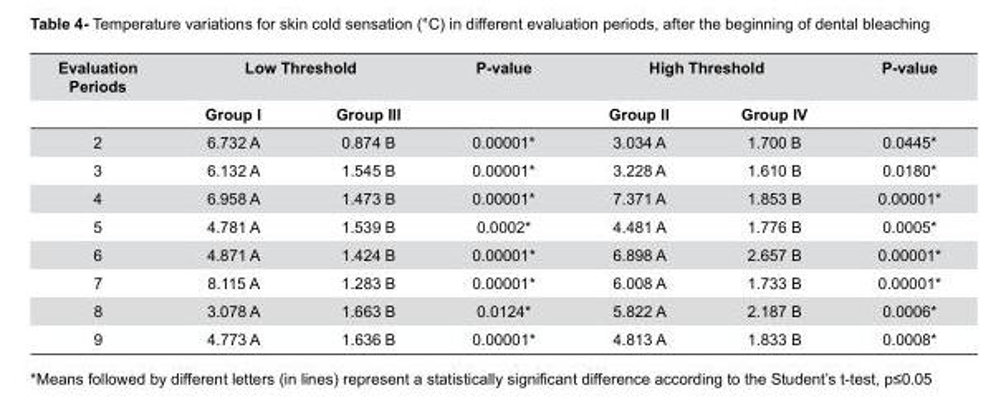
<table><thead><tr><td rowspan="2">Evaluation Periods</td><td colspan="2">Low Threshold</td><td rowspan="2">P-value</td><td colspan="2">High Threshold</td><td rowspan="2">P-value</td></tr><tr><td>Group I</td><td>Group III</td><td>Group II</td><td>Group IV</td></tr></thead><tbody><tr><td>2</td><td>6.732 A</td><td>0.874 B</td><td>0.00001*</td><td>3.034 A</td><td>1.700 B</td><td>0.0445*</td></tr><tr><td>3</td><td>6.132 A</td><td>1.545 B</td><td>0.00001*</td><td>3.228 A</td><td>1.610 B</td><td>0.0180*</td></tr><tr><td>4</td><td>6.958 A</td><td>1.473 B</td><td>0.00001*</td><td>7.371 A</td><td>1.853 B</td><td>0.00001*</td></tr><tr><td>5</td><td>4.781 A</td><td>1.539 B</td><td>0.0002*</td><td>4.481 A</td><td>1.776 B</td><td>0.0005*</td></tr><tr><td>6</td><td>4.871 A</td><td>1.424 B</td><td>0.00001*</td><td>6.898 A</td><td>2.657 B</td><td>0.00001*</td></tr><tr><td>7</td><td>8.115 A</td><td>1.283 B</td><td>0.00001*</td><td>6.008 A</td><td>1.733 B</td><td>0.00001*</td></tr><tr><td>8</td><td>3.078 A</td><td>1.663 B</td><td>0.0124*</td><td>5.822 A</td><td>2.187 B</td><td>0.0006*</td></tr><tr><td>9</td><td>4.773 A</td><td>1.636 B</td><td>0.00001*</td><td>4.813 A</td><td>1.833 B</td><td>0.0008*</td></tr></tbody></table>